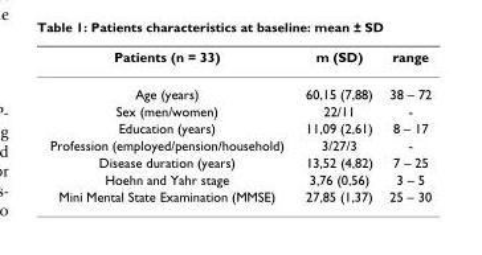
<table><thead><tr><td>Patients (n = 33)</td><td>m (SD)</td><td>range</td></tr></thead><tbody><tr><td>Age (years)</td><td>60,15 (7,88)</td><td>38 – 72</td></tr><tr><td>Sex (men/women)</td><td>22/11</td><td>-</td></tr><tr><td>Education (years)</td><td>11,09 (2,61)</td><td>8 – 17</td></tr><tr><td>Profession (employed/pension/household)</td><td>3/27/3</td><td>-</td></tr><tr><td>Disease duration (years)</td><td>13,52 (4,82)</td><td>7 – 25</td></tr><tr><td>Hoehn and Yahr stage</td><td>3,76 (0,56)</td><td>3 – 5</td></tr><tr><td>Mini Mental State Examination (MMSE)</td><td>27,85 (1,37)</td><td>25 – 30</td></tr></tbody></table>